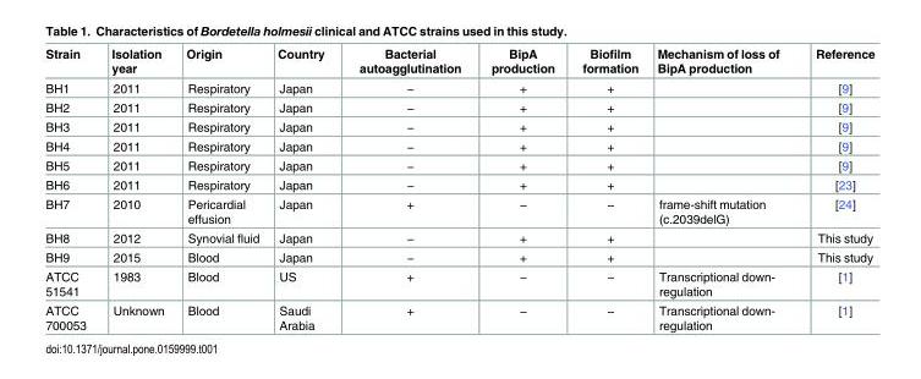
<table><thead><tr><td>Strain</td><td>Isolation year</td><td>Origin</td><td>Country</td><td>Bacterial autoagglutination</td><td>BipA production</td><td>Biofilm formation</td><td>Mechanism of loss of BipA production</td><td>Reference</td></tr></thead><tbody><tr><td>BH1</td><td>2011</td><td>Respiratory</td><td>Japan</td><td>−</td><td>+</td><td>+</td><td></td><td>[9]</td></tr><tr><td>BH2</td><td>2011</td><td>Respiratory</td><td>Japan</td><td>−</td><td>+</td><td>+</td><td></td><td>[9]</td></tr><tr><td>BH3</td><td>2011</td><td>Respiratory</td><td>Japan</td><td>−</td><td>+</td><td>+</td><td></td><td>[9]</td></tr><tr><td>BH4</td><td>2011</td><td>Respiratory</td><td>Japan</td><td>−</td><td>+</td><td>+</td><td></td><td>[9]</td></tr><tr><td>BH5</td><td>2011</td><td>Respiratory</td><td>Japan</td><td>−</td><td>+</td><td>+</td><td></td><td>[9]</td></tr><tr><td>BH6</td><td>2011</td><td>Respiratory</td><td>Japan</td><td>−</td><td>+</td><td>+</td><td></td><td>[23]</td></tr><tr><td>BH7</td><td>2010</td><td>Pericardial effusion</td><td>Japan</td><td>+</td><td>−</td><td>−</td><td>frame-shift mutation (c.2039delG)</td><td>[24]</td></tr><tr><td>BH8</td><td>2012</td><td>Synovial fluid</td><td>Japan</td><td>−</td><td>+</td><td>+</td><td></td><td>This study</td></tr><tr><td>BH9</td><td>2015</td><td>Blood</td><td>Japan</td><td>−</td><td>+</td><td>+</td><td></td><td>This study</td></tr><tr><td>ATCC 51541</td><td>1983</td><td>Blood</td><td>US</td><td>+</td><td>−</td><td>−</td><td>Transcriptional down- regulation</td><td>[1]</td></tr><tr><td>ATCC 700053</td><td>Unknown</td><td>Blood</td><td>Saudi Arabia</td><td>+</td><td>−</td><td>−</td><td>Transcriptional down- regulation</td><td>[1]</td></tr></tbody></table>